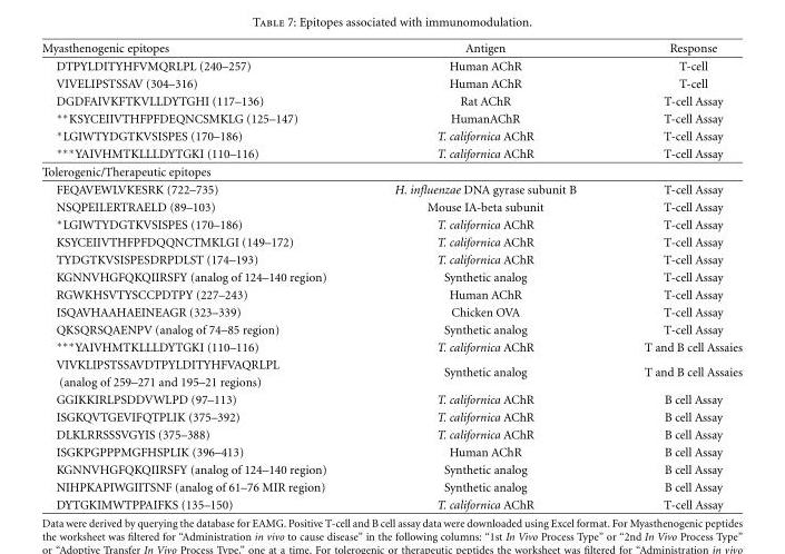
<table><thead><tr><td>Myasthenogenic epitopes</td><td>Antigen</td><td>Response</td></tr></thead><tbody><tr><td>DTPYLDITYHFVMQRLPL (240–257)</td><td>Human AChR</td><td>T-cell</td></tr><tr><td>VIVELIPSTSSAV (304–316)</td><td>Human AChR</td><td>T-cell</td></tr><tr><td>DGDFAIVKFTKVLLDYTGHI (117–136)</td><td>Rat AChR</td><td>T-cell Assay</td></tr><tr><td>∗∗KSYCEIIVTHFPFDEQNCSMKLG (125–147)</td><td>HumanAChR</td><td>T-cell Assay</td></tr><tr><td>∗LGIWTYDGTKVSISPES (170–186)</td><td>T. californica AChR</td><td>T-cell Assay</td></tr><tr><td>∗∗∗YAIVHMTKLLLDYTGKI (110–116)</td><td>T. californica AChR</td><td>T-cell Assay</td></tr><tr><td colspan="3">Tolerogenic/Therapeutic epitopes</td></tr><tr><td>FEQAVEWLVKESRK (722–735)</td><td>H. influenzae DNA gyrase subunit B</td><td>T-cell Assay</td></tr><tr><td>NSQPEILERTRAELD (89–103)</td><td>Mouse IA-beta subunit</td><td>T-cell Assay</td></tr><tr><td>∗LGIWTYDGTKVSISPES (170–186)</td><td>T. californica AChR</td><td>T-cell Assay</td></tr><tr><td>KSYCEIIVTHFPFDQQNCTMKLGI (149–172)</td><td>T. californica AChR</td><td>T-cell Assay</td></tr><tr><td>TYDGTKVSISPESDRPDLST (174–193)</td><td>T. californica AChR</td><td>T-cell Assay</td></tr><tr><td>KGNNVHGFQKQIIRSFY (analog of 124–140 region)</td><td>Synthetic analog</td><td>T-cell Assay</td></tr><tr><td>RGWKHSVTYSCCPDTPY (227–243)</td><td>Human AChR</td><td>T-cell Assay</td></tr><tr><td>ISQAVHAAHAEINEAGR (323–339)</td><td>Chicken OVA</td><td>T-cell Assay</td></tr><tr><td>QKSQRSQAENPV (analog of 74–85 region)</td><td>Synthetic analog</td><td>T-cell Assay</td></tr><tr><td>∗∗∗YAIVHMTKLLLDYTGKI (110–116)</td><td>T. californica AChR</td><td>T and B cell Assaies</td></tr><tr><td>VIVKLIPSTSSAVDTPYLDITYHFVAQRLPL</td><td rowspan="2">Synthetic analog</td><td rowspan="2">T and B cell Assaies</td></tr><tr><td>(analog of 259–271 and 195–21 regions)</td></tr><tr><td>GGIKKIRLPSDDVWLPD (97–113)</td><td>T. californica AChR</td><td>B cell Assay</td></tr><tr><td>ISGKQVTGEVIFQTPLIK (375–392)</td><td>T. californica AChR</td><td>B cell Assay</td></tr><tr><td>DLKLRRSSSVGYIS (375–388)</td><td>T. californica AChR</td><td>B cell Assay</td></tr><tr><td>ISGKPGPPPMGFHSPLIK (396–413)</td><td>Human AChR</td><td>B cell Assay</td></tr><tr><td>KGNNVHGFQKQIIRSFY (analog of 124–140 region)</td><td>Synthetic analog</td><td>B cell Assay</td></tr><tr><td>NIHPKAPIWGIITSNF (analog of 61–76 MIR region)</td><td>Synthetic analog</td><td>B cell Assay</td></tr><tr><td>DYTGKIMWTPPAIFKS (135–150)</td><td>T. californica AChR</td><td>T-cell Assay</td></tr></tbody></table>